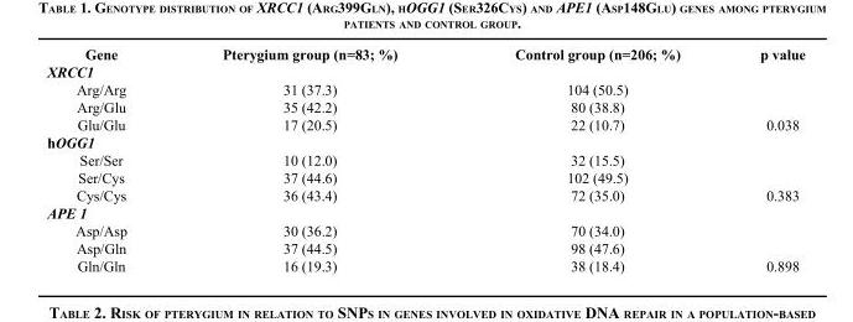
<table><thead><tr><td>Gene</td><td>Pterygium group (n=83; %)</td><td>Control group (n=206; %)</td><td>p value</td></tr></thead><tbody><tr><td colspan="4">XRCC1</td></tr><tr><td>Arg/Arg</td><td>31 (37.3)</td><td>104 (50.5)</td><td></td></tr><tr><td>Arg/Glu</td><td>35 (42.2)</td><td>80 (38.8)</td><td></td></tr><tr><td>Glu/Glu</td><td>17 (20.5)</td><td>22 (10.7)</td><td>0.038</td></tr><tr><td colspan="4">hOGG1</td></tr><tr><td>Ser/Ser</td><td>10 (12.0)</td><td>32 (15.5)</td><td></td></tr><tr><td>Ser/Cys</td><td>37 (44.6)</td><td>102 (49.5)</td><td></td></tr><tr><td>Cys/Cys</td><td>36 (43.4)</td><td>72 (35.0)</td><td>0.383</td></tr><tr><td colspan="4">APE 1</td></tr><tr><td>Asp/Asp</td><td>30 (36.2)</td><td>70 (34.0)</td><td></td></tr><tr><td>Asp/Gln</td><td>37 (44.5)</td><td>98 (47.6)</td><td></td></tr><tr><td>Gln/Gln</td><td>16 (19.3)</td><td>38 (18.4)</td><td>0.898</td></tr></tbody></table>